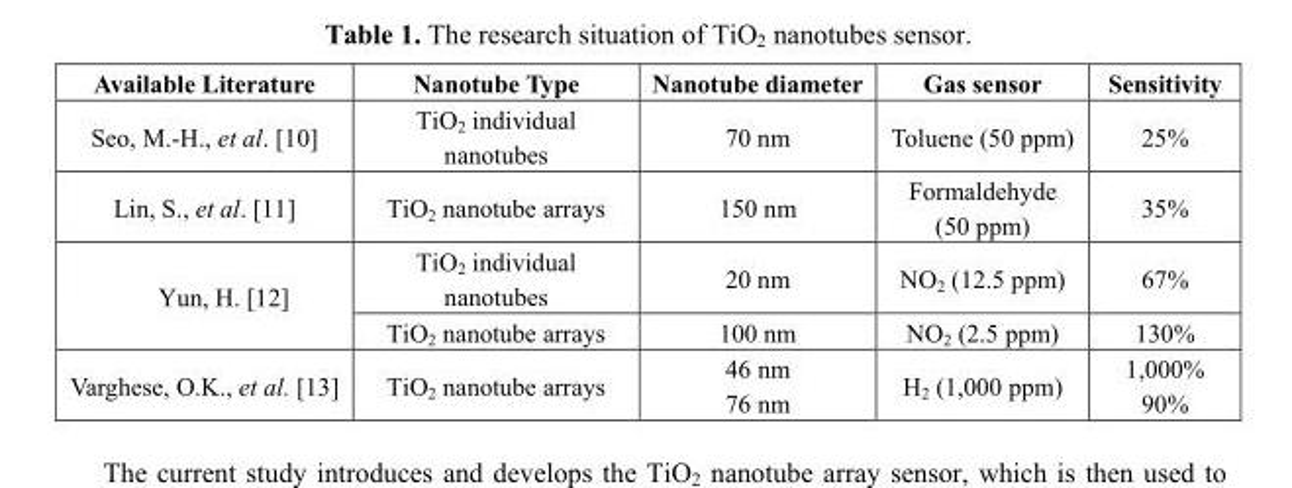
<table><thead><tr><td>Available Literature</td><td>Nanotube Type</td><td>Nanotube diameter</td><td>Gas sensor</td><td>Sensitivity</td></tr></thead><tbody><tr><td>Seo, M.-H., et al. [10]</td><td>TiO<sub>2</sub> individual nanotubes</td><td>70 nm</td><td>Toluene (50 ppm)</td><td>25%</td></tr><tr><td>Lin, S., et al. [11]</td><td>TiO<sub>2</sub> nanotube arrays</td><td>150 nm</td><td>Formaldehyde (50 ppm)</td><td>35%</td></tr><tr><td rowspan="2">Yun, H. [12]</td><td>TiO<sub>2</sub> individual nanotubes</td><td>20 nm</td><td>NO<sub>2</sub> (12.5 ppm)</td><td>67%</td></tr><tr><td>TiO<sub>2</sub> nanotube arrays</td><td>100 nm</td><td>NO<sub>2</sub> (2.5 ppm)</td><td>130%</td></tr><tr><td>Varghese, O.K., et al. [13]</td><td>TiO<sub>2</sub> nanotube arrays</td><td>46 nm 76 nm</td><td>H<sub>2</sub> (1,000 ppm)</td><td>1,000% 90%</td></tr></tbody></table>